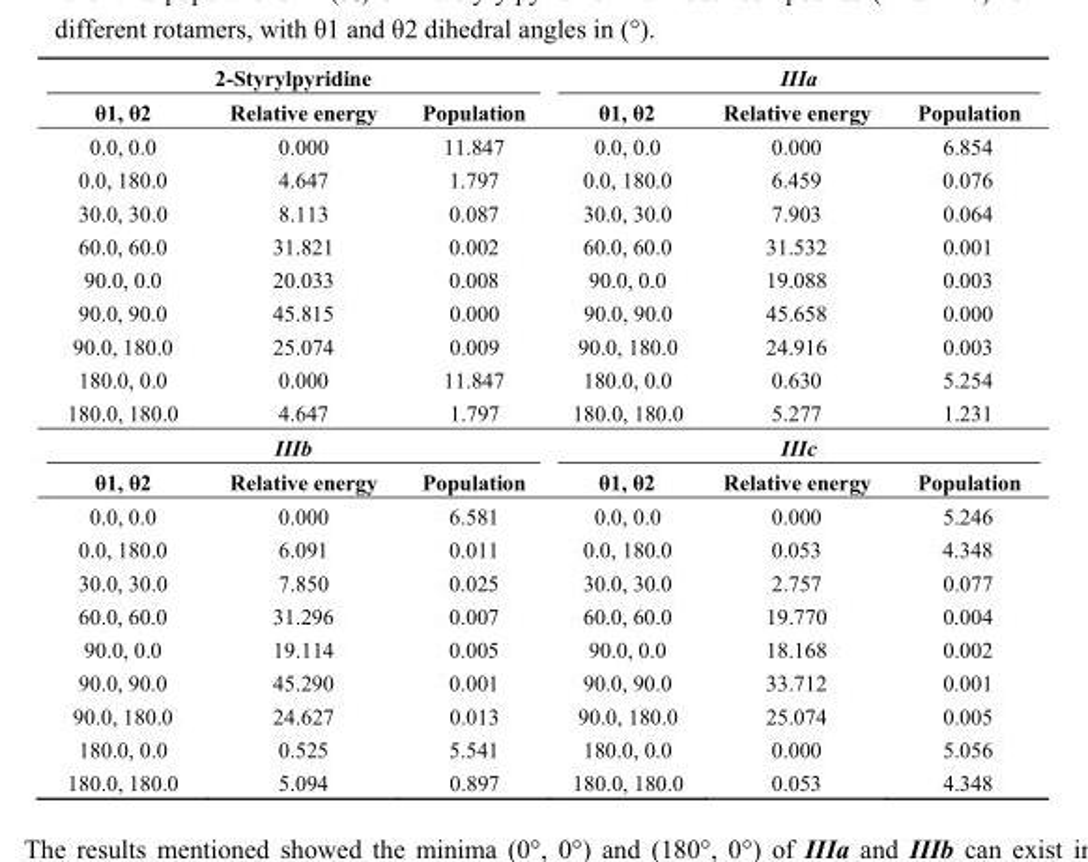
<table><thead><tr><td colspan="3">2-Styrylpyridine</td><td colspan="3">IIIa</td></tr><tr><td>θ1, θ2</td><td>Relative energy</td><td>Population</td><td>θ1, θ2</td><td>Relative energy</td><td>Population</td></tr></thead><tbody><tr><td>0.0, 0.0</td><td>0.000</td><td>11.847</td><td>0.0, 0.0</td><td>0.000</td><td>6.854</td></tr><tr><td>0.0, 180.0</td><td>4.647</td><td>1.797</td><td>0.0, 180.0</td><td>6.459</td><td>0.076</td></tr><tr><td>30.0, 30.0</td><td>8.113</td><td>0.087</td><td>30.0, 30.0</td><td>7.903</td><td>0.064</td></tr><tr><td>60.0, 60.0</td><td>31.821</td><td>0.002</td><td>60.0, 60.0</td><td>31.532</td><td>0.001</td></tr><tr><td>90.0, 0.0</td><td>20.033</td><td>0.008</td><td>90.0, 0.0</td><td>19.088</td><td>0.003</td></tr><tr><td>90.0, 90.0</td><td>45.815</td><td>0.000</td><td>90.0, 90.0</td><td>45.658</td><td>0.000</td></tr><tr><td>90.0, 180.0</td><td>25.074</td><td>0.009</td><td>90.0, 180.0</td><td>24.916</td><td>0.003</td></tr><tr><td>180.0, 0.0</td><td>0.000</td><td>11.847</td><td>180.0, 0.0</td><td>0.630</td><td>5.254</td></tr><tr><td>180.0, 180.0</td><td>4.647</td><td>1.797</td><td>180.0, 180.0</td><td>5.277</td><td>1.231</td></tr><tr><td colspan="3">IIIb</td><td colspan="3">IIIc</td></tr><tr><td>θ1, θ2</td><td>Relative energy</td><td>Population</td><td>θ1, θ2</td><td>Relative energy</td><td>Population</td></tr><tr><td>0.0, 0.0</td><td>0.000</td><td>6.581</td><td>0.0, 0.0</td><td>0.000</td><td>5.246</td></tr><tr><td>0.0, 180.0</td><td>6.091</td><td>0.011</td><td>0.0, 180.0</td><td>0.053</td><td>4.348</td></tr><tr><td>30.0, 30.0</td><td>7.850</td><td>0.025</td><td>30.0, 30.0</td><td>2.757</td><td>0.077</td></tr><tr><td>60.0, 60.0</td><td>31.296</td><td>0.007</td><td>60.0, 60.0</td><td>19.770</td><td>0.004</td></tr><tr><td>90.0, 0.0</td><td>19.114</td><td>0.005</td><td>90.0, 0.0</td><td>18.168</td><td>0.002</td></tr><tr><td>90.0, 90.0</td><td>45.290</td><td>0.001</td><td>90.0, 90.0</td><td>33.712</td><td>0.001</td></tr><tr><td>90.0, 180.0</td><td>24.627</td><td>0.013</td><td>90.0, 180.0</td><td>25.074</td><td>0.005</td></tr><tr><td>180.0, 0.0</td><td>0.525</td><td>5.541</td><td>180.0, 0.0</td><td>0.000</td><td>5.056</td></tr><tr><td>180.0, 180.0</td><td>5.094</td><td>0.897</td><td>180.0, 180.0</td><td>0.053</td><td>4.348</td></tr></tbody></table>